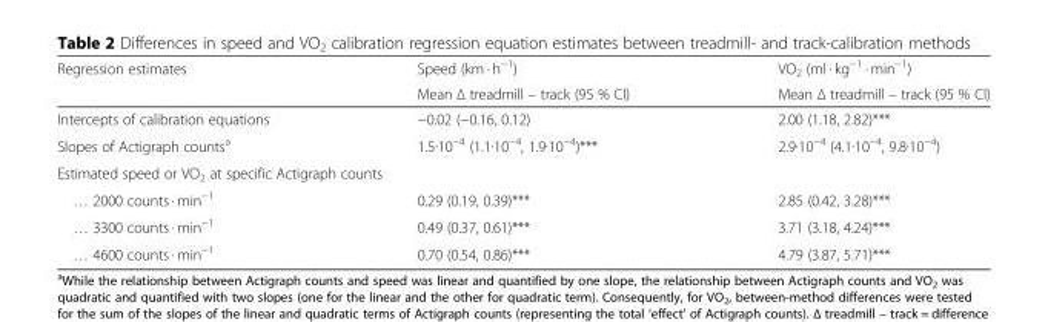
<table><thead><tr><td rowspan="2">Regression estimates</td><td rowspan="2">Speed (km · h−1) Mean Δ treadmill – track (95 % CI)</td><td rowspan="2">VO2 (ml · kg−1 · min−1) Mean Δ treadmill – track (95 % CI)</td></tr><tr></tr></thead><tbody><tr><td>Intercepts of calibration equations</td><td>−0.02 (−0.16, 0.12)</td><td>2.00 (1.18, 2.82)***</td></tr><tr><td>Slopes of Actigraph counts<sup>a</sup></td><td>1.5·10<sup>−4</sup> (1.1·10<sup>−4</sup>, 1.9·10<sup>−4</sup>)***</td><td>2.9·10<sup>−4</sup> (4.1·10<sup>−4</sup>, 9.8·10<sup>−4</sup>)</td></tr><tr><td colspan="3">Estimated speed or VO<sub>2</sub> at specific Actigraph counts</td></tr><tr><td>… 2000 counts · min<sup>−1</sup></td><td>0.29 (0.19, 0.39)***</td><td>2.85 (0.42, 3.28)***</td></tr><tr><td>… 3300 counts · min<sup>−1</sup></td><td>0.49 (0.37, 0.61)***</td><td>3.71 (3.18, 4.24)***</td></tr><tr><td>… 4600 counts · min<sup>−1</sup></td><td>0.70 (0.54, 0.86)***</td><td>4.79 (3.87, 5.71)***</td></tr></tbody></table>